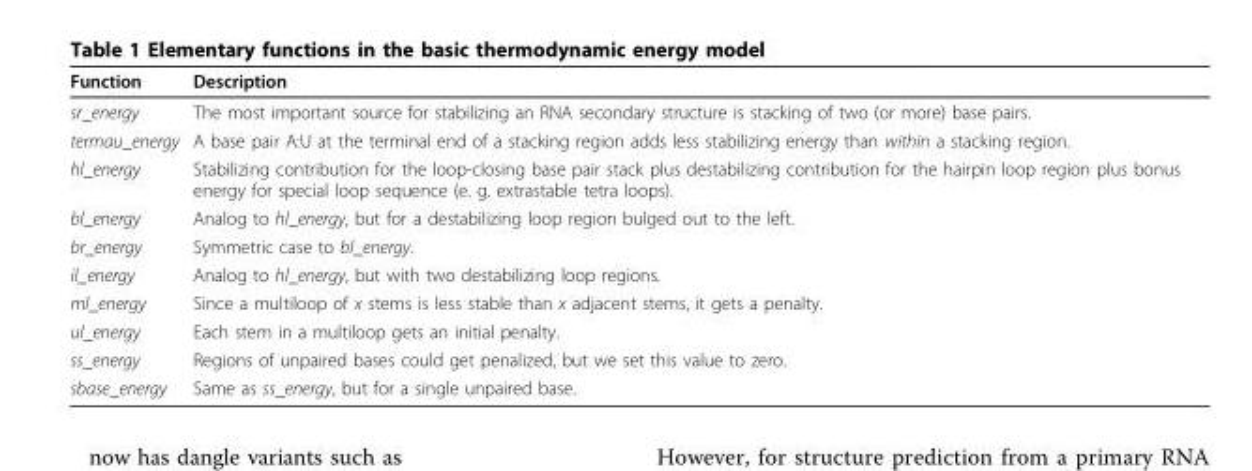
<table><thead><tr><td>Function</td><td>Description</td></tr></thead><tbody><tr><td>sr_energy</td><td>The most important source for stabilizing an RNA secondary structure is stacking of two (or more) base pairs.</td></tr><tr><td>termau_energy</td><td>A base pair A:U at the terminal end of a stacking region adds less stabilizing energy than within a stacking region.</td></tr><tr><td>hl_energy</td><td>Stabilizing contribution for the loop-closing base pair stack plus destabilizing contribution for the hairpin loop region plus bonus energy for special loop sequence (e. g. extrastable tetra loops).</td></tr><tr><td>bl_energy</td><td>Analog to hl_energy, but for a destabilizing loop region bulged out to the left.</td></tr><tr><td>br_energy</td><td>Symmetric case to bl_energy.</td></tr><tr><td>il_energy</td><td>Analog to hl_energy, but with two destabilizing loop regions.</td></tr><tr><td>ml_energy</td><td>Since a multiloop of x stems is less stable than x adjacent stems, it gets a penalty.</td></tr><tr><td>ul_energy</td><td>Each stem in a multiloop gets an initial penalty.</td></tr><tr><td>ss_energy</td><td>Regions of unpaired bases could get penalized, but we set this value to zero.</td></tr><tr><td>sbase_energy</td><td>Same as ss_energy, but for a single unpaired base.</td></tr></tbody></table>